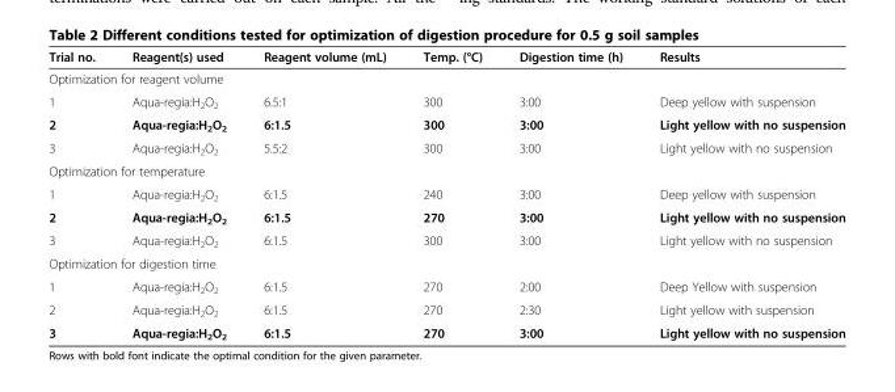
<table><thead><tr><td>Trial no.</td><td>Reagent(s) used</td><td>Reagent volume (mL)</td><td>Temp. (°C)</td><td>Digestion time (h)</td><td>Results</td></tr></thead><tbody><tr><td colspan="6">Optimization for reagent volume</td></tr><tr><td>1</td><td>Aqua-regia:H<sub>2</sub>O<sub>2</sub></td><td>6.5:1</td><td>300</td><td>3:00</td><td>Deep yellow with suspension</td></tr><tr><td>2</td><td>Aqua-regia:H<sub>2</sub>O<sub>2</sub></td><td>6:1.5</td><td>300</td><td>3:00</td><td>Light yellow with no suspension</td></tr><tr><td>3</td><td>Aqua-regia:H<sub>2</sub>O<sub>2</sub></td><td>5.5:2</td><td>300</td><td>3:00</td><td>Light yellow with no suspension</td></tr><tr><td colspan="6">Optimization for temperature</td></tr><tr><td>1</td><td>Aqua-regia:H<sub>2</sub>O<sub>2</sub></td><td>6:1.5</td><td>240</td><td>3:00</td><td>Deep yellow with suspension</td></tr><tr><td>2</td><td>Aqua-regia:H<sub>2</sub>O<sub>2</sub></td><td>6:1.5</td><td>270</td><td>3:00</td><td>Light yellow with no suspension</td></tr><tr><td>3</td><td>Aqua-regia:H<sub>2</sub>O<sub>2</sub></td><td>6:1.5</td><td>300</td><td>3:00</td><td>Light yellow with no suspension</td></tr><tr><td colspan="6">Optimization for digestion time</td></tr><tr><td>1</td><td>Aqua-regia:H<sub>2</sub>O<sub>2</sub></td><td>6:1.5</td><td>270</td><td>2:00</td><td>Deep Yellow with suspension</td></tr><tr><td>2</td><td>Aqua-regia:H<sub>2</sub>O<sub>2</sub></td><td>6:1.5</td><td>270</td><td>2:30</td><td>Light yellow with suspension</td></tr><tr><td>3</td><td>Aqua-regia:H<sub>2</sub>O<sub>2</sub></td><td>6:1.5</td><td>270</td><td>3:00</td><td>Light yellow with no suspension</td></tr></tbody></table>